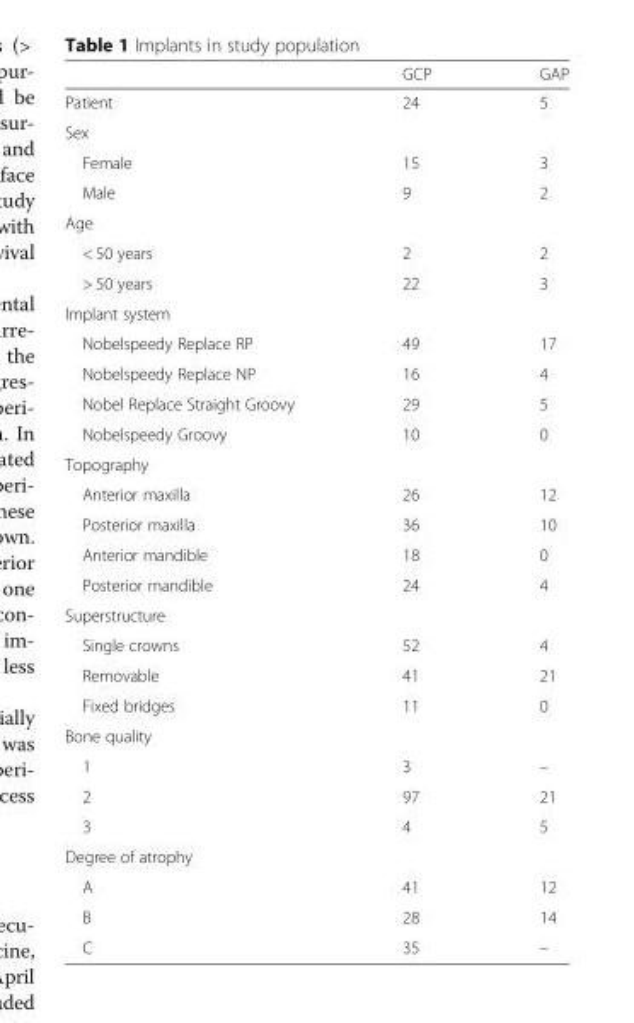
<table><thead><tr><td></td><td>GCP</td><td>GAP</td></tr></thead><tbody><tr><td>Patient</td><td>24</td><td>5</td></tr><tr><td colspan="3">Sex</td></tr><tr><td>Female</td><td>15</td><td>3</td></tr><tr><td>Male</td><td>9</td><td>2</td></tr><tr><td colspan="3">Age</td></tr><tr><td>&lt; 50 years</td><td>2</td><td>2</td></tr><tr><td>&gt; 50 years</td><td>22</td><td>3</td></tr><tr><td colspan="3">Implant system</td></tr><tr><td>Nobelspeedy Replace RP</td><td>49</td><td>17</td></tr><tr><td>Nobelspeedy Replace NP</td><td>16</td><td>4</td></tr><tr><td>Nobel Replace Straight Groovy</td><td>29</td><td>5</td></tr><tr><td>Nobelspeedy Groovy</td><td>10</td><td>0</td></tr><tr><td colspan="3">Topography</td></tr><tr><td>Anterior maxilla</td><td>26</td><td>12</td></tr><tr><td>Posterior maxilla</td><td>36</td><td>10</td></tr><tr><td>Anterior mandible</td><td>18</td><td>0</td></tr><tr><td>Posterior mandible</td><td>24</td><td>4</td></tr><tr><td colspan="3">Superstructure</td></tr><tr><td>Single crowns</td><td>52</td><td>4</td></tr><tr><td>Removable</td><td>41</td><td>21</td></tr><tr><td>Fixed bridges</td><td>11</td><td>0</td></tr><tr><td colspan="3">Bone quality</td></tr><tr><td>1</td><td>3</td><td>–</td></tr><tr><td>2</td><td>97</td><td>21</td></tr><tr><td>3</td><td>4</td><td>5</td></tr><tr><td colspan="3">Degree of atrophy</td></tr><tr><td>A</td><td>41</td><td>12</td></tr><tr><td>B</td><td>28</td><td>14</td></tr><tr><td>C</td><td>35</td><td>–</td></tr></tbody></table>